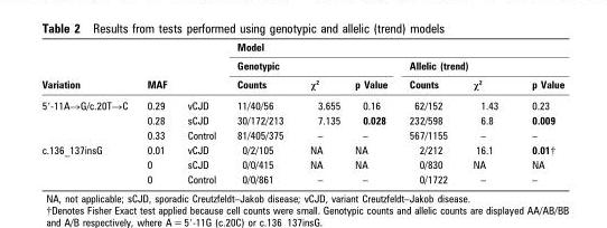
<table><thead><tr><td rowspan="3">Variation</td><td rowspan="3">MAF</td><td rowspan="3"></td><td colspan="6">Model</td></tr><tr><td colspan="3">Genotypic</td><td colspan="3">Allelic (trend)</td></tr><tr><td>Counts</td><td>χ<sup>2</sup></td><td>p Value</td><td>Counts</td><td>χ<sup>2</sup></td><td>p Value</td></tr></thead><tbody><tr><td rowspan="3">5′-11A→G/c.20T→C</td><td>0.29</td><td>vCJD</td><td>11/40/56</td><td>3.655</td><td>0.16</td><td>62/152</td><td>1.43</td><td>0.23</td></tr><tr><td>0.28</td><td>sCJD</td><td>30/172/213</td><td>7.135</td><td>0.028</td><td>232/598</td><td>6.8</td><td>0.009</td></tr><tr><td>0.33</td><td>Control</td><td>81/405/375</td><td>–</td><td>–</td><td>567/1155</td><td>–</td><td>–</td></tr><tr><td rowspan="3">c.136_137insG</td><td>0.01</td><td>vCJD</td><td>0/2/105</td><td>NA</td><td>NA</td><td>2/212</td><td>16.1</td><td>0.01†</td></tr><tr><td>0</td><td>sCJD</td><td>0/0/415</td><td>NA</td><td>NA</td><td>0/830</td><td>NA</td><td>NA</td></tr><tr><td>0</td><td>Control</td><td>0/0/861</td><td>–</td><td>–</td><td>0/1722</td><td>–</td><td>–</td></tr></tbody></table>